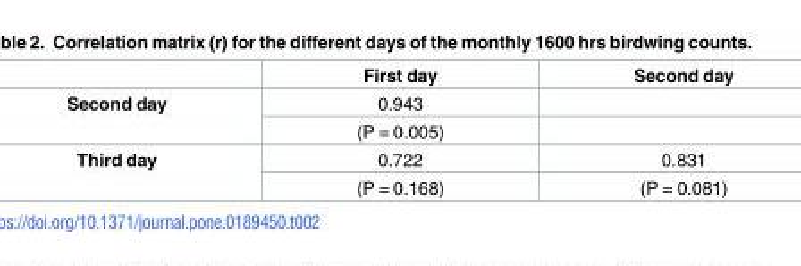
<table><thead><tr><td></td><td>First day</td><td>Second day</td></tr></thead><tbody><tr><td rowspan="2">Second day</td><td>0.943</td><td></td></tr><tr><td>(P = 0.005)</td><td></td></tr><tr><td rowspan="2">Third day</td><td>0.722</td><td>0.831</td></tr><tr><td>(P = 0.168)</td><td>(P = 0.081)</td></tr></tbody></table>